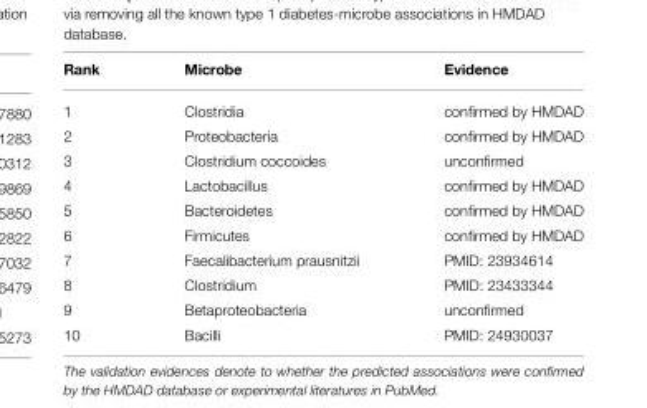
<table><thead><tr><td>Rank</td><td>Microbe</td><td>Evidence</td></tr></thead><tbody><tr><td>1</td><td>Clostridia</td><td>confirmed by HMDAD</td></tr><tr><td>2</td><td>Proteobacteria</td><td>confirmed by HMDAD</td></tr><tr><td>3</td><td>Clostridium coccoides</td><td>unconfirmed</td></tr><tr><td>4</td><td>Lactobacillus</td><td>confirmed by HMDAD</td></tr><tr><td>5</td><td>Bacteroidetes</td><td>confirmed by HMDAD</td></tr><tr><td>6</td><td>Firmicutes</td><td>confirmed by HMDAD</td></tr><tr><td>7</td><td>Faecalibacterium prausnitzii</td><td>PMID: 23934614</td></tr><tr><td>8</td><td>Clostridium</td><td>PMID: 23433344</td></tr><tr><td>9</td><td>Betaproteobacteria</td><td>unconfirmed</td></tr><tr><td>10</td><td>Bacilli</td><td>PMID: 24930037</td></tr></tbody></table>